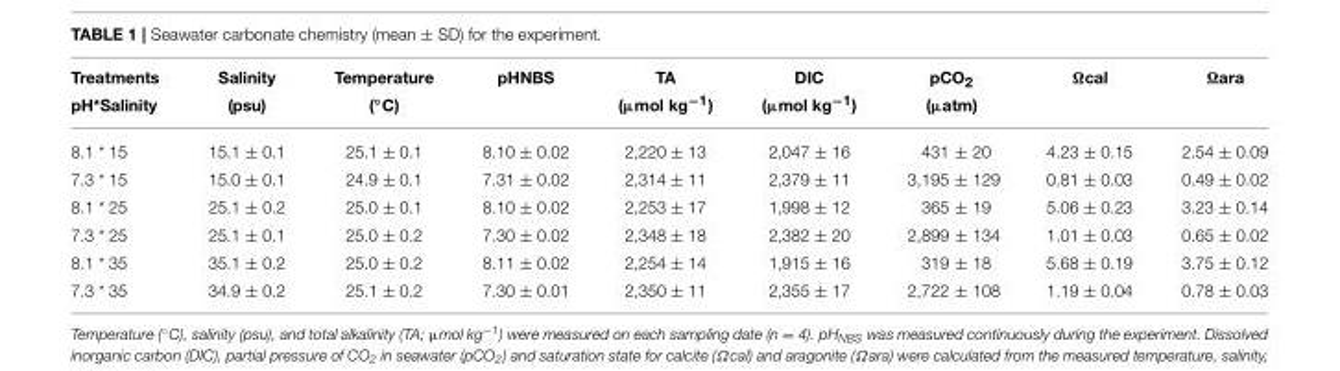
<table><thead><tr><td rowspan="2">Treatments pH*Salinity</td><td rowspan="2">Salinity (psu)</td><td rowspan="2">Temperature (◦C)</td><td rowspan="2">pHNBS</td><td rowspan="2">TA (µmol kg<sup>−1</sup>)</td><td rowspan="2">DIC (µmol kg<sup>−1</sup>)</td><td rowspan="2">pCO<sub>2</sub> (µatm)</td><td rowspan="2">Ωcal</td><td rowspan="2">Ωara</td></tr><tr></tr></thead><tbody><tr><td>8.1 * 15</td><td>15.1 ± 0.1</td><td>25.1 ± 0.1</td><td>8.10 ± 0.02</td><td>2,220 ± 13</td><td>2,047 ± 16</td><td>431 ± 20</td><td>4.23 ± 0.15</td><td>2.54 ± 0.09</td></tr><tr><td>7.3 * 15</td><td>15.0 ± 0.1</td><td>24.9 ± 0.1</td><td>7.31 ± 0.02</td><td>2,314 ± 11</td><td>2,379 ± 11</td><td>3,195 ± 129</td><td>0.81 ± 0.03</td><td>0.49 ± 0.02</td></tr><tr><td>8.1 * 25</td><td>25.1 ± 0.2</td><td>25.0 ± 0.1</td><td>8.10 ± 0.02</td><td>2,253 ± 17</td><td>1,998 ± 12</td><td>365 ± 19</td><td>5.06 ± 0.23</td><td>3.23 ± 0.14</td></tr><tr><td>7.3 * 25</td><td>25.1 ± 0.1</td><td>25.0 ± 0.2</td><td>7.30 ± 0.02</td><td>2,348 ± 18</td><td>2,382 ± 20</td><td>2,899 ± 134</td><td>1.01 ± 0.03</td><td>0.65 ± 0.02</td></tr><tr><td>8.1 * 35</td><td>35.1 ± 0.2</td><td>25.0 ± 0.2</td><td>8.11 ± 0.02</td><td>2,254 ± 14</td><td>1,915 ± 16</td><td>319 ± 18</td><td>5.68 ± 0.19</td><td>3.75 ± 0.12</td></tr><tr><td>7.3 * 35</td><td>34.9 ± 0.2</td><td>25.1 ± 0.2</td><td>7.30 ± 0.01</td><td>2,350 ± 11</td><td>2,355 ± 17</td><td>2,722 ± 108</td><td>1.19 ± 0.04</td><td>0.78 ± 0.03</td></tr></tbody></table>